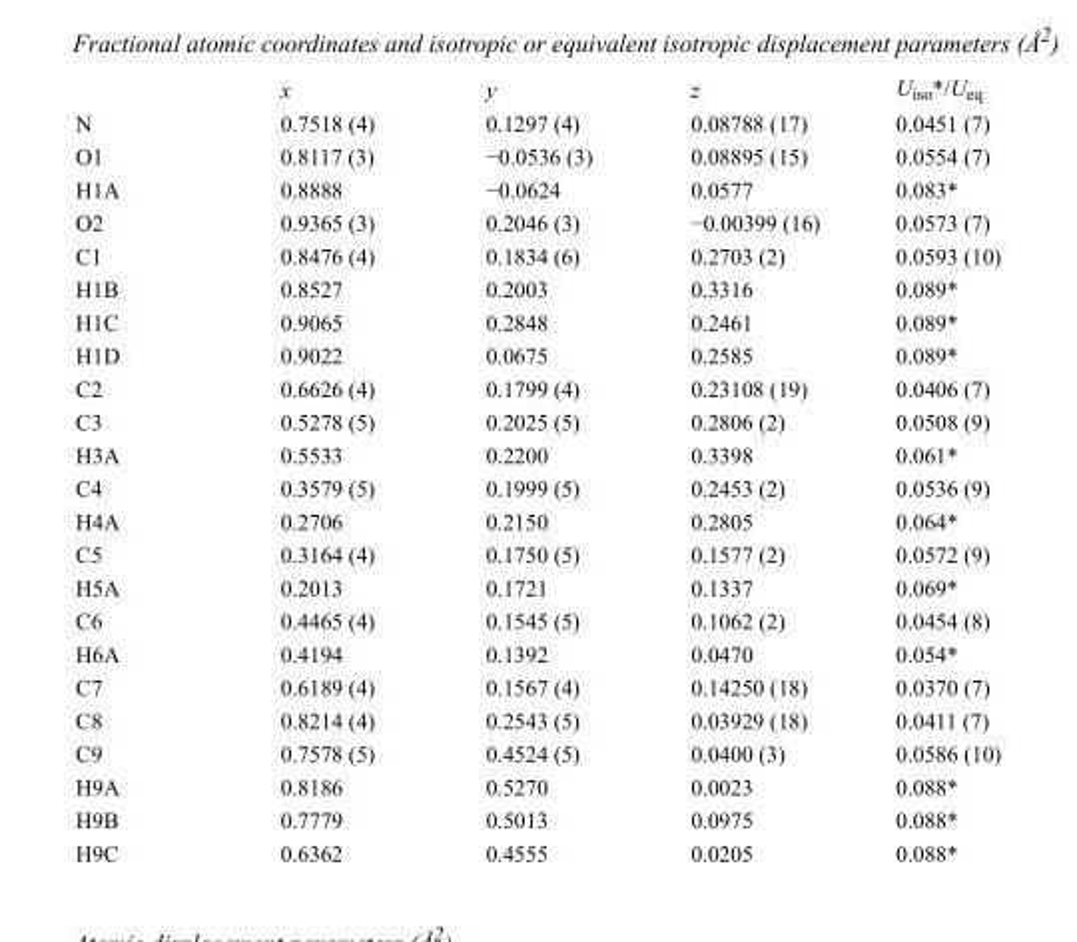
<table><thead><tr><td></td><td>x</td><td>y</td><td>z</td><td>U<sub>iso</sub>*/U<sub>eq</sub></td></tr></thead><tbody><tr><td>N</td><td>0.7518 (4)</td><td>0.1297 (4)</td><td>0.08788 (17)</td><td>0.0451 (7)</td></tr><tr><td>O1</td><td>0.8117 (3)</td><td>−0.0536 (3)</td><td>0.08895 (15)</td><td>0.0554 (7)</td></tr><tr><td>H1A</td><td>0.8888</td><td>−0.0624</td><td>0.0577</td><td>0.083*</td></tr><tr><td>O2</td><td>0.9365 (3)</td><td>0.2046 (3)</td><td>−0.00399 (16)</td><td>0.0573 (7)</td></tr><tr><td>C1</td><td>0.8476 (4)</td><td>0.1834 (6)</td><td>0.2703 (2)</td><td>0.0593 (10)</td></tr><tr><td>H1B</td><td>0.8527</td><td>0.2003</td><td>0.3316</td><td>0.089*</td></tr><tr><td>H1C</td><td>0.9065</td><td>0.2848</td><td>0.2461</td><td>0.089*</td></tr><tr><td>H1D</td><td>0.9022</td><td>0.0675</td><td>0.2585</td><td>0.089*</td></tr><tr><td>C2</td><td>0.6626 (4)</td><td>0.1799 (4)</td><td>0.23108 (19)</td><td>0.0406 (7)</td></tr><tr><td>C3</td><td>0.5278 (5)</td><td>0.2025 (5)</td><td>0.2806 (2)</td><td>0.0508 (9)</td></tr><tr><td>H3A</td><td>0.5533</td><td>0.2200</td><td>0.3398</td><td>0.061*</td></tr><tr><td>C4</td><td>0.3579 (5)</td><td>0.1999 (5)</td><td>0.2453 (2)</td><td>0.0536 (9)</td></tr><tr><td>H4A</td><td>0.2706</td><td>0.2150</td><td>0.2805</td><td>0.064*</td></tr><tr><td>C5</td><td>0.3164 (4)</td><td>0.1750 (5)</td><td>0.1577 (2)</td><td>0.0572 (9)</td></tr><tr><td>H5A</td><td>0.2013</td><td>0.1721</td><td>0.1337</td><td>0.069*</td></tr><tr><td>C6</td><td>0.4465 (4)</td><td>0.1545 (5)</td><td>0.1062 (2)</td><td>0.0454 (8)</td></tr><tr><td>H6A</td><td>0.4194</td><td>0.1392</td><td>0.0470</td><td>0.054*</td></tr><tr><td>C7</td><td>0.6189 (4)</td><td>0.1567 (4)</td><td>0.14250 (18)</td><td>0.0370 (7)</td></tr><tr><td>C8</td><td>0.8214 (4)</td><td>0.2543 (5)</td><td>0.03929 (18)</td><td>0.0411 (7)</td></tr><tr><td>C9</td><td>0.7578 (5)</td><td>0.4524 (5)</td><td>0.0400 (3)</td><td>0.0586 (10)</td></tr><tr><td>H9A</td><td>0.8186</td><td>0.5270</td><td>0.0023</td><td>0.088*</td></tr><tr><td>H9B</td><td>0.7779</td><td>0.5013</td><td>0.0975</td><td>0.088*</td></tr><tr><td>H9C</td><td>0.6362</td><td>0.4555</td><td>0.0205</td><td>0.088*</td></tr></tbody></table>